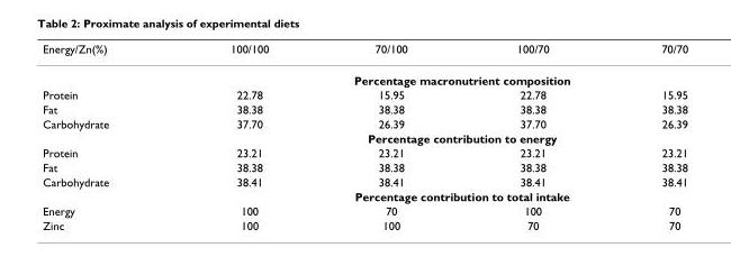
<table><thead><tr><td>Energy/Zn(%)</td><td>100/100</td><td>70/100</td><td>100/70</td><td>70/70</td></tr></thead><tbody><tr><td></td><td colspan="4">Percentage macronutrient composition</td></tr><tr><td>Protein</td><td>22.78</td><td>15.95</td><td>22.78</td><td>15.95</td></tr><tr><td>Fat</td><td>38.38</td><td>38.38</td><td>38.38</td><td>38.38</td></tr><tr><td rowspan="2">Carbohydrate</td><td>37.70</td><td>26.39</td><td>37.70</td><td>26.39</td></tr><tr><td colspan="4">Percentage contribution to energy</td></tr><tr><td>Protein</td><td>23.21</td><td>23.21</td><td>23.21</td><td>23.21</td></tr><tr><td>Fat</td><td>38.38</td><td>38.38</td><td>38.38</td><td>38.38</td></tr><tr><td rowspan="2">Carbohydrate</td><td>38.41</td><td>38.41</td><td>38.41</td><td>38.41</td></tr><tr><td colspan="4">Percentage contribution to total intake</td></tr><tr><td>Energy</td><td>100</td><td>70</td><td>100</td><td>70</td></tr><tr><td>Zinc</td><td>100</td><td>100</td><td>70</td><td>70</td></tr></tbody></table>